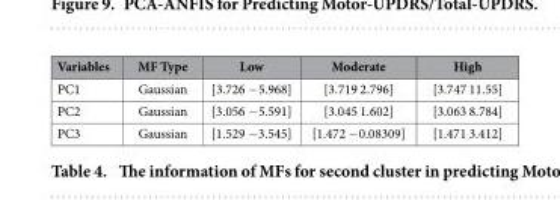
<table><thead><tr><td>Variables</td><td>MF Type</td><td>Low</td><td>Moderate</td><td>High</td></tr></thead><tbody><tr><td>PC1</td><td>Gaussian</td><td>[3.726 − 5.968]</td><td>[3.719 2.796]</td><td>[3.747 11.55]</td></tr><tr><td>PC2</td><td>Gaussian</td><td>[3.056 − 5.591]</td><td>[3.045 1.602]</td><td>[3.063 8.784]</td></tr><tr><td>PC3</td><td>Gaussian</td><td>[1.529 − 3.545]</td><td>[1.472 − 0.08309]</td><td>[1.471 3.412]</td></tr></tbody></table>